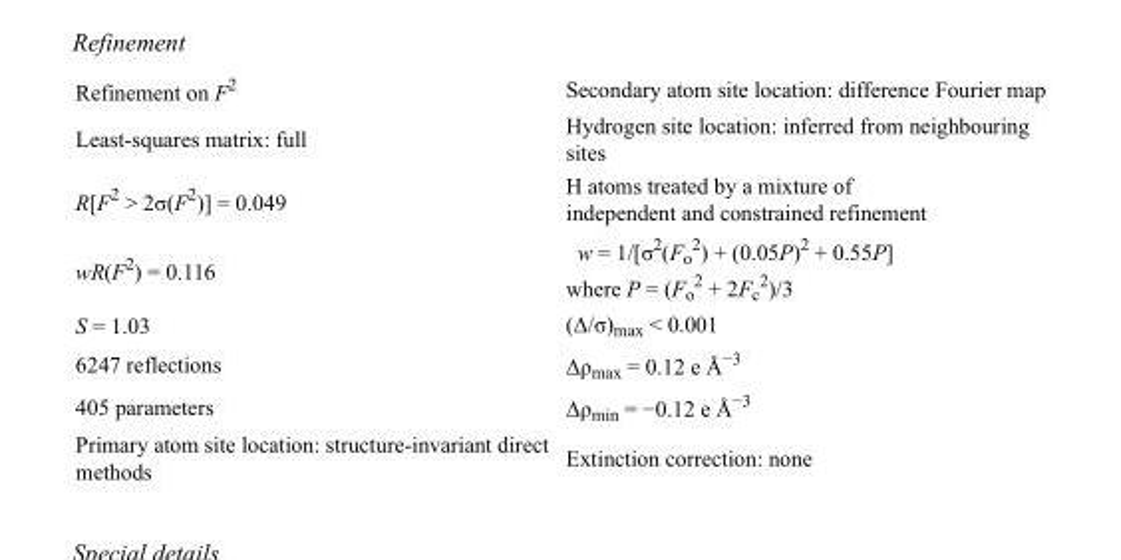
<table><tbody><tr><td>Refinement on F<sup>2</sup></td><td>Secondary atom site location: difference Fourier map</td></tr><tr><td>Least-squares matrix: full</td><td>Hydrogen site location: inferred from neighbouring sites</td></tr><tr><td>R[F<sup>2</sup> &gt; 2σ(F<sup>2</sup>)] = 0.049</td><td>H atoms treated by a mixture of independent and constrained refinement</td></tr><tr><td>wR(F<sup>2</sup>) = 0.116</td><td>w = 1/[σ<sup>2</sup>(F<sub>o</sub> <sup>2</sup>) + (0.05P)<sup>2</sup> + 0.55P] where P = (F<sub>o</sub> <sup>2</sup> + 2F<sub>c</sub> <sup>2</sup>)/3</td></tr><tr><td>S = 1.03</td><td>(Δ/σ)<sub>max</sub> &lt; 0.001</td></tr><tr><td>6247 reflections</td><td>Δρ<sub>max</sub> = 0.12 e Å<sup>−3</sup></td></tr><tr><td>405 parameters</td><td>Δρ<sub>min</sub> = −0.12 e Å<sup>−3</sup></td></tr><tr><td>Primary atom site location: structure-invariant direct methods</td><td>Extinction correction: none</td></tr></tbody></table>